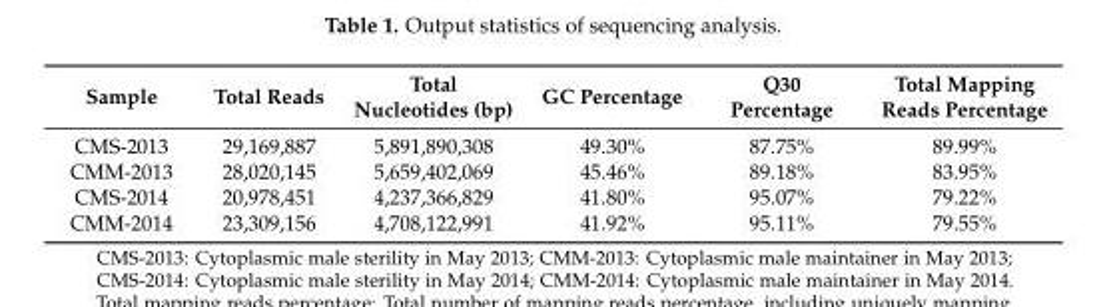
<table><thead><tr><td>Sample</td><td>Total Reads</td><td>Total Nucleotides (bp)</td><td>GC Percentage</td><td>Q30 Percentage</td><td>Total Mapping Reads Percentage</td></tr></thead><tbody><tr><td>CMS-2013</td><td>29,169,887</td><td>5,891,890,308</td><td>49.30%</td><td>87.75%</td><td>89.99%</td></tr><tr><td>CMM-2013</td><td>28,020,145</td><td>5,659,402,069</td><td>45.46%</td><td>89.18%</td><td>83.95%</td></tr><tr><td>CMS-2014</td><td>20,978,451</td><td>4,237,366,829</td><td>41.80%</td><td>95.07%</td><td>79.22%</td></tr><tr><td>CMM-2014</td><td>23,309,156</td><td>4,708,122,991</td><td>41.92%</td><td>95.11%</td><td>79.55%</td></tr></tbody></table>